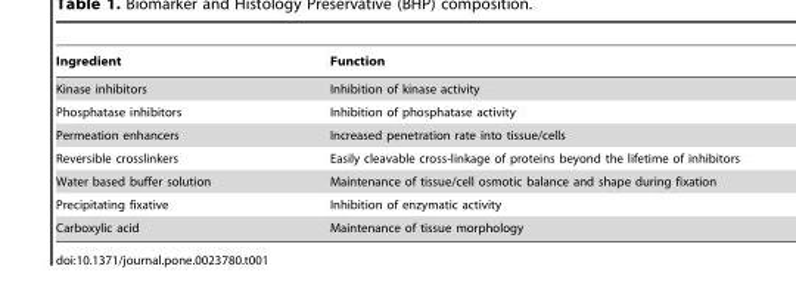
<table><thead><tr><td>Ingredient</td><td>Function</td></tr></thead><tbody><tr><td>Kinase inhibitors</td><td>Inhibition of kinase activity</td></tr><tr><td>Phosphatase inhibitors</td><td>Inhibition of phosphatase activity</td></tr><tr><td>Permeation enhancers</td><td>Increased penetration rate into tissue/cells</td></tr><tr><td>Reversible crosslinkers</td><td>Easily cleavable cross-linkage of proteins beyond the lifetime of inhibitors</td></tr><tr><td>Water based buffer solution</td><td>Maintenance of tissue/cell osmotic balance and shape during fixation</td></tr><tr><td>Precipitating fixative</td><td>Inhibition of enzymatic activity</td></tr><tr><td>Carboxylic acid</td><td>Maintenance of tissue morphology</td></tr></tbody></table>